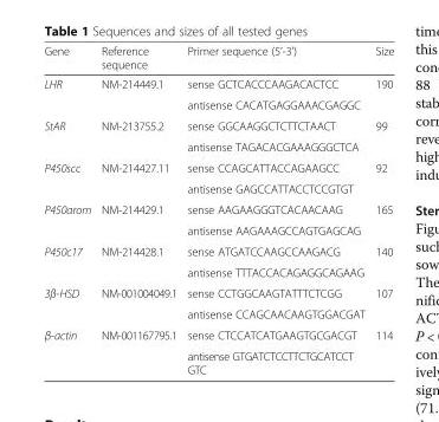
<table><thead><tr><td>Gene</td><td>Reference sequence</td><td>Primer sequence (5’-3’)</td><td>Size</td></tr></thead><tbody><tr><td rowspan="2">LHR</td><td rowspan="2">NM-214449.1</td><td>sense GCTCACCCAAGACACTCC</td><td rowspan="2">190</td></tr><tr><td>antisense CACATGAGGAAACGAGGC</td></tr><tr><td rowspan="2">StAR</td><td rowspan="2">NM-213755.2</td><td>sense GGCAAGGCTCTTCTAACT</td><td rowspan="2">99</td></tr><tr><td>antisense TAGACACGAAAGGGCTCA</td></tr><tr><td rowspan="2">P450scc</td><td rowspan="2">NM-214427.11</td><td>sense CCAGCATTACCAGAAGCC</td><td rowspan="2">92</td></tr><tr><td>antisense GAGCCATTACCTCCGTGT</td></tr><tr><td rowspan="2">P450arom</td><td rowspan="2">NM-214429.1</td><td>sense AAGAAGGGTCACAACAAG</td><td rowspan="2">165</td></tr><tr><td>antisense AAGAAAGCCAGTGAGCAG</td></tr><tr><td rowspan="2">P450c17</td><td rowspan="2">NM-214428.1</td><td>sense ATGATCCAAGCCAAGACG</td><td rowspan="2">140</td></tr><tr><td>antisense TTTACCACAGAGGCAGAAG</td></tr><tr><td rowspan="2">3β-HSD</td><td rowspan="2">NM-001004049.1</td><td>sense CCTGGCAAGTATTTCTCGG</td><td rowspan="2">107</td></tr><tr><td>antisense CCAGCAACAAGTGGACGAT</td></tr><tr><td rowspan="2">β-actin</td><td rowspan="2">NM-001167795.1</td><td>sense CTCCATCATGAAGTGCGACGT</td><td rowspan="2">114</td></tr><tr><td>antisense GTGATCTCCTTCTGCATCCT GTC</td></tr></tbody></table>